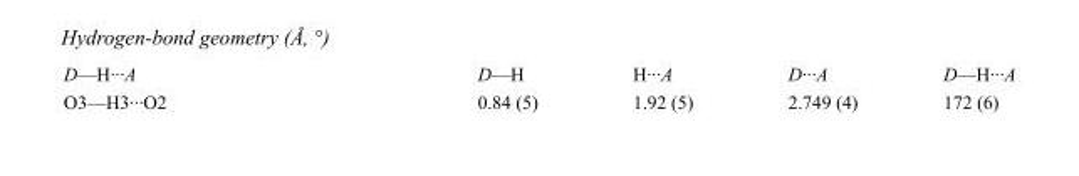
<table><tbody><tr><td>D—H···A</td><td>D—H</td><td>H···A</td><td>D···A</td><td>D—H···A</td></tr><tr><td>O3—H3···O2</td><td>0.84 (5)</td><td>1.92 (5)</td><td>2.749 (4)</td><td>172 (6)</td></tr></tbody></table>